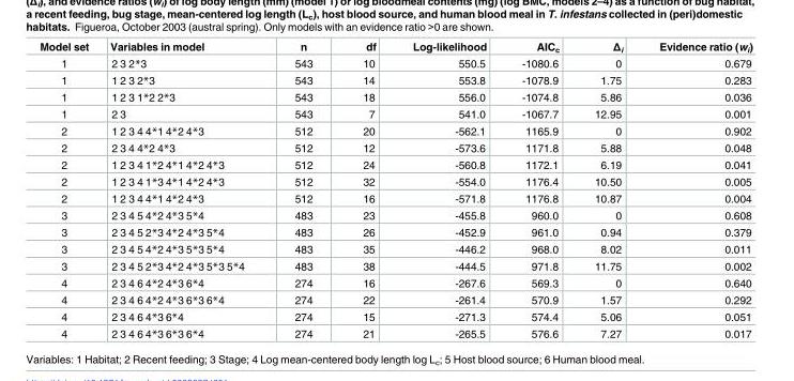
<table><thead><tr><td>Model set</td><td>Variables in model</td><td>n</td><td>df</td><td>Log-likelihood</td><td>AIC<sub>c</sub></td><td>Δ<sub>i</sub></td><td>Evidence ratio (w<sub>i</sub>)</td></tr></thead><tbody><tr><td>1</td><td>2 3 2*3</td><td>543</td><td>10</td><td>550.5</td><td>-1080.6</td><td>0</td><td>0.679</td></tr><tr><td>1</td><td>1 2 3 2*3</td><td>543</td><td>14</td><td>553.8</td><td>-1078.9</td><td>1.75</td><td>0.283</td></tr><tr><td>1</td><td>1 2 3 1*2 2*3</td><td>543</td><td>18</td><td>556.0</td><td>-1074.8</td><td>5.86</td><td>0.036</td></tr><tr><td>1</td><td>2 3</td><td>543</td><td>7</td><td>541.0</td><td>-1067.7</td><td>12.95</td><td>0.001</td></tr><tr><td>2</td><td>1 2 3 4 4*1 4*2 4*3</td><td>512</td><td>20</td><td>-562.1</td><td>1165.9</td><td>0</td><td>0.902</td></tr><tr><td>2</td><td>2 3 4 4*2 4*3</td><td>512</td><td>12</td><td>-573.6</td><td>1171.8</td><td>5.88</td><td>0.048</td></tr><tr><td>2</td><td>1 2 3 4 1*2 4*1 4*2 4*3</td><td>512</td><td>24</td><td>-560.8</td><td>1172.1</td><td>6.19</td><td>0.041</td></tr><tr><td>2</td><td>1 2 3 4 1*3 4*1 4*2 4*3</td><td>512</td><td>32</td><td>-554.0</td><td>1176.4</td><td>10.50</td><td>0.005</td></tr><tr><td>2</td><td>1 2 3 4 4*1 4*2 4*3</td><td>512</td><td>16</td><td>-571.8</td><td>1176.8</td><td>10.87</td><td>0.004</td></tr><tr><td>3</td><td>2 3 4 5 4*2 4*3 5*4</td><td>483</td><td>23</td><td>-455.8</td><td>960.0</td><td>0</td><td>0.608</td></tr><tr><td>3</td><td>2 3 4 5 2*3 4*2 4*3 5*4</td><td>483</td><td>26</td><td>-452.9</td><td>961.0</td><td>0.94</td><td>0.379</td></tr><tr><td>3</td><td>2 3 4 5 4*2 4*3 5*3 5*4</td><td>483</td><td>35</td><td>-446.2</td><td>968.0</td><td>8.02</td><td>0.011</td></tr><tr><td>3</td><td>2 3 4 5 2*3 4*2 4*3 5*3 5*4</td><td>483</td><td>38</td><td>-444.5</td><td>971.8</td><td>11.75</td><td>0.002</td></tr><tr><td>4</td><td>2 3 4 6 4*2 4*3 6*4</td><td>274</td><td>16</td><td>-267.6</td><td>569.3</td><td>0</td><td>0.640</td></tr><tr><td>4</td><td>2 3 4 6 4*2 4*3 6*3 6*4</td><td>274</td><td>22</td><td>-261.4</td><td>570.9</td><td>1.57</td><td>0.292</td></tr><tr><td>4</td><td>2 3 4 6 4*3 6*4</td><td>274</td><td>15</td><td>-271.3</td><td>574.4</td><td>5.06</td><td>0.051</td></tr><tr><td>4</td><td>2 3 4 6 4*3 6*3 6*4</td><td>274</td><td>21</td><td>-265.5</td><td>576.6</td><td>7.27</td><td>0.017</td></tr></tbody></table>